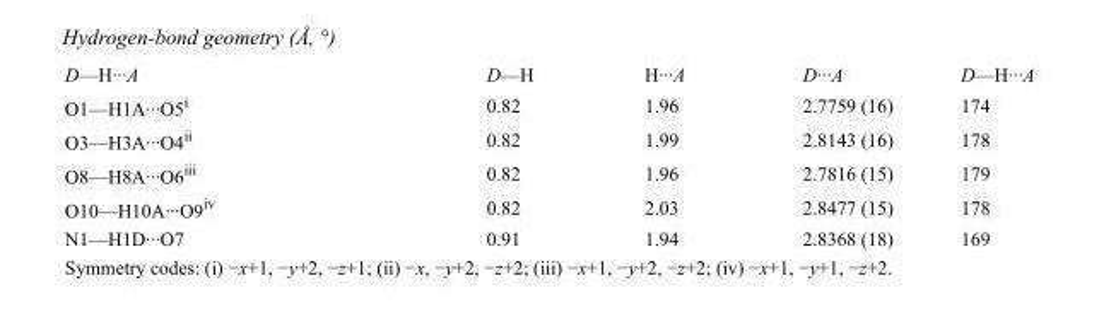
<table><tbody><tr><td>D—H···A</td><td>D—H</td><td>H···A</td><td>D···A</td><td>D—H···A</td></tr><tr><td>O1—H1A···O5<sup>i</sup></td><td>0.82</td><td>1.96</td><td>2.7759 (16)</td><td>174</td></tr><tr><td>O3—H3A···O4<sup>ii</sup></td><td>0.82</td><td>1.99</td><td>2.8143 (16)</td><td>178</td></tr><tr><td>O8—H8A···O6<sup>iii</sup></td><td>0.82</td><td>1.96</td><td>2.7816 (15)</td><td>179</td></tr><tr><td>O10—H10A···O9<sup>iv</sup></td><td>0.82</td><td>2.03</td><td>2.8477 (15)</td><td>178</td></tr><tr><td>N1—H1D···O7</td><td>0.91</td><td>1.94</td><td>2.8368 (18)</td><td>169</td></tr></tbody></table>